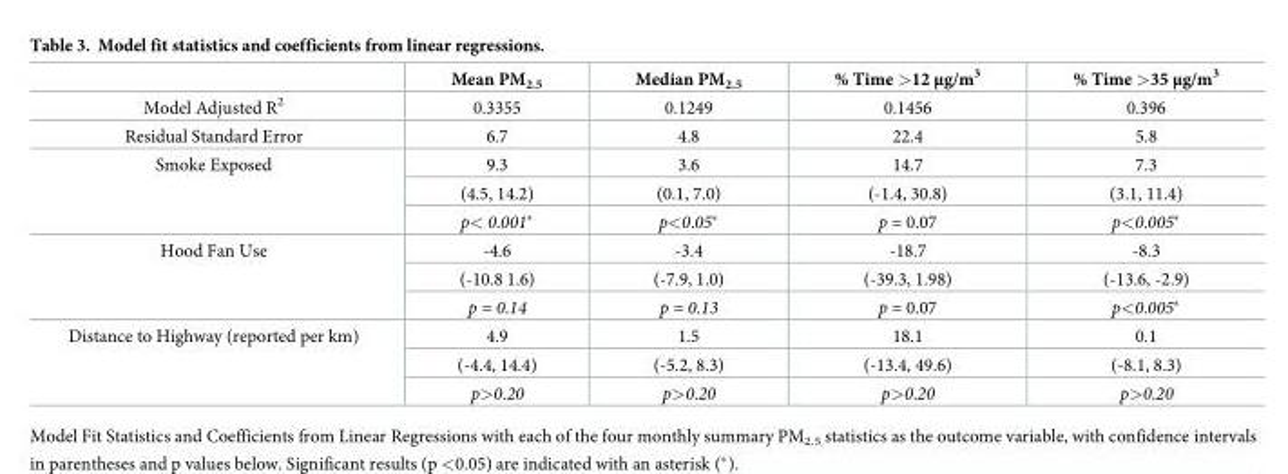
<table><thead><tr><td></td><td>Mean PM<sub>2.5</sub></td><td>Median PM<sub>2.5</sub></td><td>% Time &gt;12 μg/m<sup>3</sup></td><td>% Time &gt;35 μg/m<sup>3</sup></td></tr></thead><tbody><tr><td>Model Adjusted R<sup>2</sup></td><td>0.3355</td><td>0.1249</td><td>0.1456</td><td>0.396</td></tr><tr><td>Residual Standard Error</td><td>6.7</td><td>4.8</td><td>22.4</td><td>5.8</td></tr><tr><td rowspan="3">Smoke Exposed</td><td>9.3</td><td>3.6</td><td>14.7</td><td>7.3</td></tr><tr><td>(4.5, 14.2)</td><td>(0.1, 7.0)</td><td>(-1.4, 30.8)</td><td>(3.1, 11.4)</td></tr><tr><td>p&lt; 0.001*</td><td>p&lt;0.05*</td><td>p = 0.07</td><td>p&lt;0.005*</td></tr><tr><td rowspan="3">Hood Fan Use</td><td>-4.6</td><td>-3.4</td><td>-18.7</td><td>-8.3</td></tr><tr><td>(-10.8 1.6)</td><td>(-7.9, 1.0)</td><td>(-39.3, 1.98)</td><td>(-13.6, -2.9)</td></tr><tr><td>p = 0.14</td><td>p = 0.13</td><td>p = 0.07</td><td>p&lt;0.005*</td></tr><tr><td rowspan="3">Distance to Highway (reported per km)</td><td>4.9</td><td>1.5</td><td>18.1</td><td>0.1</td></tr><tr><td>(-4.4, 14.4)</td><td>(-5.2, 8.3)</td><td>(-13.4, 49.6)</td><td>(-8.1, 8.3)</td></tr><tr><td>p&gt;0.20</td><td>p&gt;0.20</td><td>p&gt;0.20</td><td>p&gt;0.20</td></tr></tbody></table>